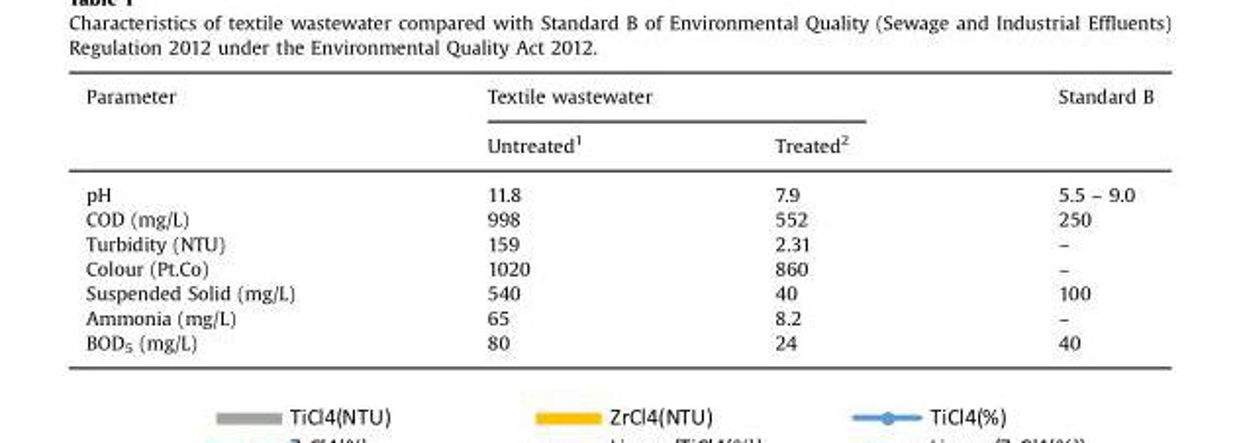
<table><thead><tr><td rowspan="2">Parameter</td><td colspan="2">Textile wastewater</td><td rowspan="2">Standard B</td></tr><tr><td>Untreated<sup>1</sup></td><td>Treated<sup>2</sup></td></tr></thead><tbody><tr><td>pH</td><td>11.8</td><td>7.9</td><td>5.5 – 9.0</td></tr><tr><td>COD (mg/L)</td><td>998</td><td>552</td><td>250</td></tr><tr><td>Turbidity (NTU)</td><td>159</td><td>2.31</td><td>–</td></tr><tr><td>Colour (Pt.Co)</td><td>1020</td><td>860</td><td>–</td></tr><tr><td>Suspended Solid (mg/L)</td><td>540</td><td>40</td><td>100</td></tr><tr><td>Ammonia (mg/L)</td><td>65</td><td>8.2</td><td>–</td></tr><tr><td>BOD<sub>5</sub> (mg/L)</td><td>80</td><td>24</td><td>40</td></tr></tbody></table>